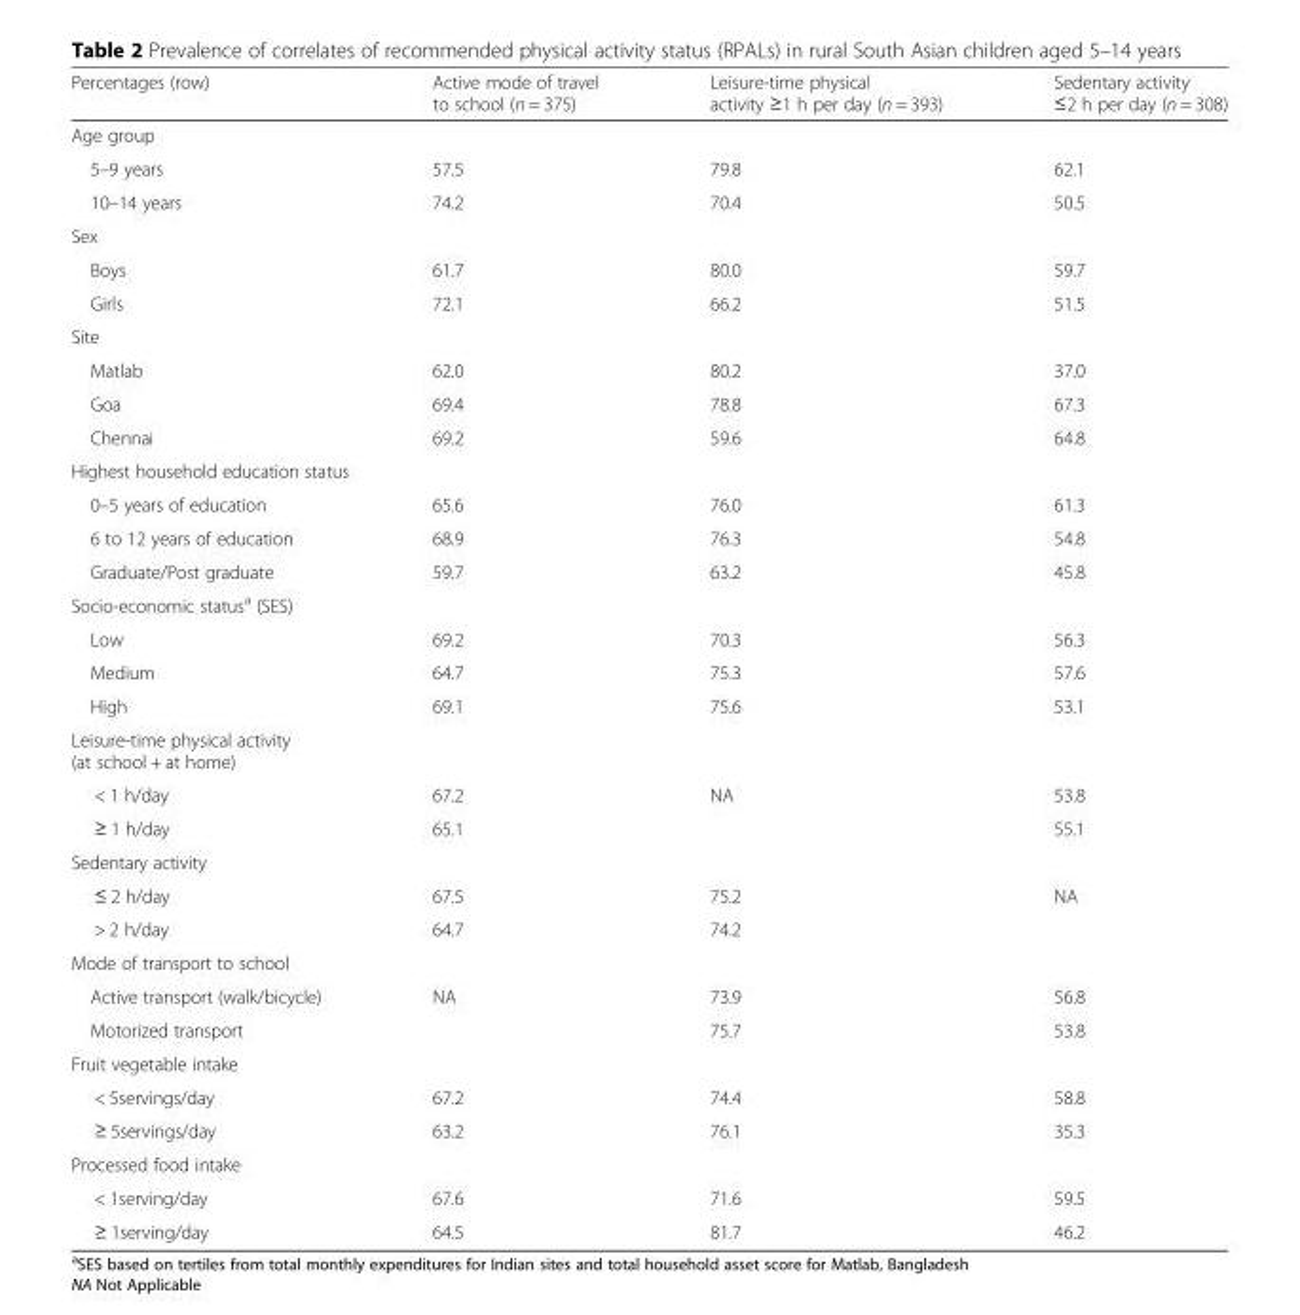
<table><thead><tr><td>Percentages (row)</td><td>Active mode of travel to school (n = 375)</td><td>Leisure-time physical activity ≥1 h per day (n = 393)</td><td>Sedentary activity ≤2 h per day (n = 308)</td></tr></thead><tbody><tr><td colspan="4">Age group</td></tr><tr><td>5–9 years</td><td>57.5</td><td>79.8</td><td>62.1</td></tr><tr><td>10–14 years</td><td>74.2</td><td>70.4</td><td>50.5</td></tr><tr><td colspan="4">Sex</td></tr><tr><td>Boys</td><td>61.7</td><td>80.0</td><td>59.7</td></tr><tr><td>Girls</td><td>72.1</td><td>66.2</td><td>51.5</td></tr><tr><td colspan="4">Site</td></tr><tr><td>Matlab</td><td>62.0</td><td>80.2</td><td>37.0</td></tr><tr><td>Goa</td><td>69.4</td><td>78.8</td><td>67.3</td></tr><tr><td>Chennai</td><td>69.2</td><td>59.6</td><td>64.8</td></tr><tr><td colspan="4">Highest household education status</td></tr><tr><td>0–5 years of education</td><td>65.6</td><td>76.0</td><td>61.3</td></tr><tr><td>6 to 12 years of education</td><td>68.9</td><td>76.3</td><td>54.8</td></tr><tr><td>Graduate/Post graduate</td><td>59.7</td><td>63.2</td><td>45.8</td></tr><tr><td colspan="4">Socio-economic status<sup>a</sup> (SES)</td></tr><tr><td>Low</td><td>69.2</td><td>70.3</td><td>56.3</td></tr><tr><td>Medium</td><td>64.7</td><td>75.3</td><td>57.6</td></tr><tr><td>High</td><td>69.1</td><td>75.6</td><td>53.1</td></tr><tr><td colspan="4">Leisure-time physical activity (at school + at home)</td></tr><tr><td>&lt; 1 h/day</td><td>67.2</td><td>NA</td><td>53.8</td></tr><tr><td>≥ 1 h/day</td><td>65.1</td><td></td><td>55.1</td></tr><tr><td colspan="4">Sedentary activity</td></tr><tr><td>≤ 2 h/day</td><td>67.5</td><td>75.2</td><td>NA</td></tr><tr><td>&gt; 2 h/day</td><td>64.7</td><td>74.2</td><td></td></tr><tr><td colspan="4">Mode of transport to school</td></tr><tr><td>Active transport (walk/bicycle)</td><td>NA</td><td>73.9</td><td>56.8</td></tr><tr><td>Motorized transport</td><td></td><td>75.7</td><td>53.8</td></tr><tr><td colspan="4">Fruit vegetable intake</td></tr><tr><td>&lt; 5servings/day</td><td>67.2</td><td>74.4</td><td>58.8</td></tr><tr><td>≥ 5servings/day</td><td>63.2</td><td>76.1</td><td>35.3</td></tr><tr><td colspan="4">Processed food intake</td></tr><tr><td>&lt; 1serving/day</td><td>67.6</td><td>71.6</td><td>59.5</td></tr><tr><td>≥ 1serving/day</td><td>64.5</td><td>81.7</td><td>46.2</td></tr></tbody></table>